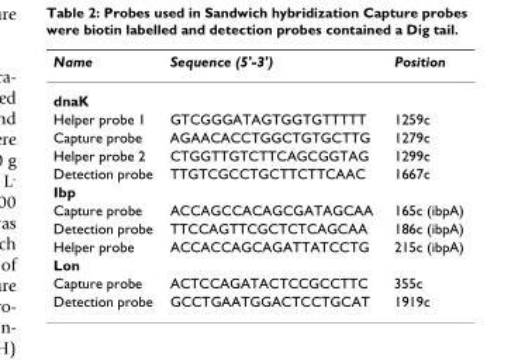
<table><thead><tr><td>Name</td><td>Sequence (5&#x27;-3&#x27;)</td><td>Position</td></tr></thead><tbody><tr><td colspan="3">dnaK</td></tr><tr><td>Helper probe 1</td><td>GTCGGGATAGTGGTGTTTTT</td><td>1259c</td></tr><tr><td>Capture probe</td><td>AGAACACCTGGCTGTGCTTG</td><td>1279c</td></tr><tr><td>Helper probe 2</td><td>CTGGTTGTCTTCAGCGGTAG</td><td>1299c</td></tr><tr><td>Detection probe</td><td>TTGTCGCCTGCTTCTTCAAC</td><td>1667c</td></tr><tr><td colspan="3">Ibp</td></tr><tr><td>Capture probe</td><td>ACCAGCCACAGCGATAGCAA</td><td>165c (ibpA)</td></tr><tr><td>Detection probe</td><td>TTCCAGTTCGCTCTCAGCAA</td><td>186c (ibpA)</td></tr><tr><td>Helper probe</td><td>ACCACCAGCAGATTATCCTG</td><td>215c (ibpA)</td></tr><tr><td colspan="3">Lon</td></tr><tr><td>Capture probe</td><td>ACTCCAGATACTCCGCCTTC</td><td>355c</td></tr><tr><td>Detection probe</td><td>GCCTGAATGGACTCCTGCAT</td><td>1919c</td></tr></tbody></table>